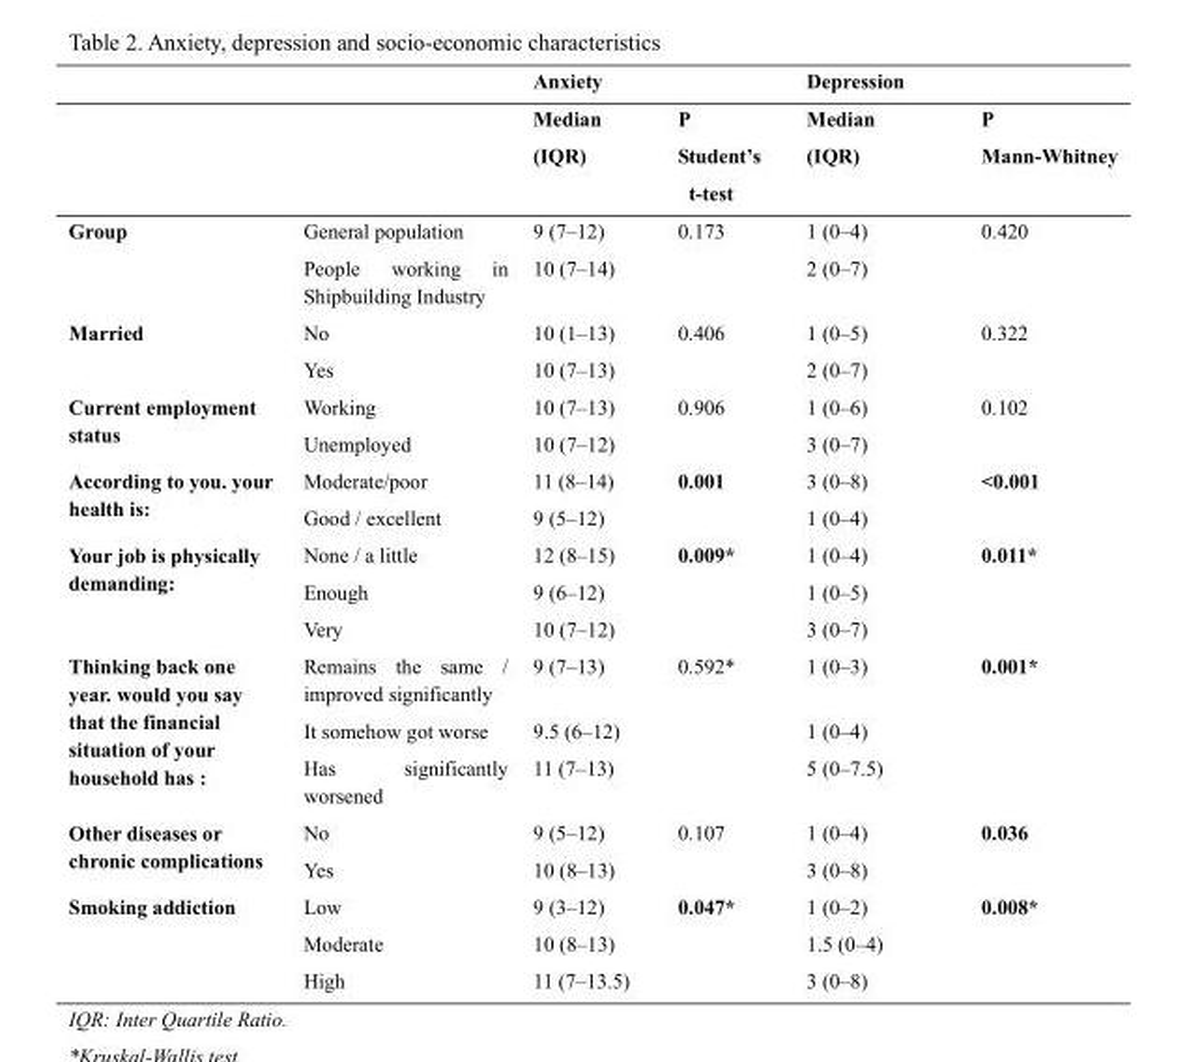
<table><thead><tr><td rowspan="2"></td><td rowspan="2"></td><td rowspan="2">Anxiety Median (IQR)</td><td rowspan="2">P Student’s t-test</td><td rowspan="2">Depression Median (IQR)</td><td rowspan="2">P Mann-Whitney</td></tr><tr></tr></thead><tbody><tr><td rowspan="2">Group</td><td>General population</td><td>9 (7–12)</td><td>0.173</td><td>1 (0–4)</td><td>0.420</td></tr><tr><td>People working in Shipbuilding Industry</td><td>10 (7–14)</td><td></td><td>2 (0–7)</td><td></td></tr><tr><td rowspan="2">Married</td><td>No</td><td>10 (1–13)</td><td>0.406</td><td>1 (0–5)</td><td>0.322</td></tr><tr><td>Yes</td><td>10 (7–13)</td><td></td><td>2 (0–7)</td><td></td></tr><tr><td rowspan="2">Current employment status</td><td>Working</td><td>10 (7–13)</td><td>0.906</td><td>1 (0–6)</td><td>0.102</td></tr><tr><td>Unemployed</td><td>10 (7–12)</td><td></td><td>3 (0–7)</td><td></td></tr><tr><td rowspan="2">According to you. your health is:</td><td>Moderate/poor</td><td>11 (8–14)</td><td>0.001</td><td>3 (0–8)</td><td>&lt;0.001</td></tr><tr><td>Good / excellent</td><td>9 (5–12)</td><td></td><td>1 (0–4)</td><td></td></tr><tr><td rowspan="3">Your job is physically demanding:</td><td>None / a little</td><td>12 (8–15)</td><td>0.009*</td><td>1 (0–4)</td><td>0.011*</td></tr><tr><td>Enough</td><td>9 (6–12)</td><td></td><td>1 (0–5)</td><td></td></tr><tr><td>Very</td><td>10 (7–12)</td><td></td><td>3 (0–7)</td><td></td></tr><tr><td rowspan="3">Thinking back one year. would you say that the financial situation of your household has :</td><td>Remains the same / improved significantly</td><td>9 (7–13)</td><td>0.592*</td><td>1 (0–3)</td><td>0.001*</td></tr><tr><td>It somehow got worse</td><td>9.5 (6–12)</td><td></td><td>1 (0–4)</td><td></td></tr><tr><td>Has significantly worsened</td><td>11 (7–13)</td><td></td><td>5 (0–7.5)</td><td></td></tr><tr><td rowspan="2">Other diseases or chronic complications</td><td>No</td><td>9 (5–12)</td><td>0.107</td><td>1 (0–4)</td><td>0.036</td></tr><tr><td>Yes</td><td>10 (8–13)</td><td></td><td>3 (0–8)</td><td></td></tr><tr><td rowspan="3">Smoking addiction</td><td>Low</td><td>9 (3–12)</td><td>0.047*</td><td>1 (0–2)</td><td>0.008*</td></tr><tr><td>Moderate</td><td>10 (8–13)</td><td></td><td>1.5 (0–4)</td><td></td></tr><tr><td>High</td><td>11 (7–13.5)</td><td></td><td>3 (0–8)</td><td></td></tr></tbody></table>